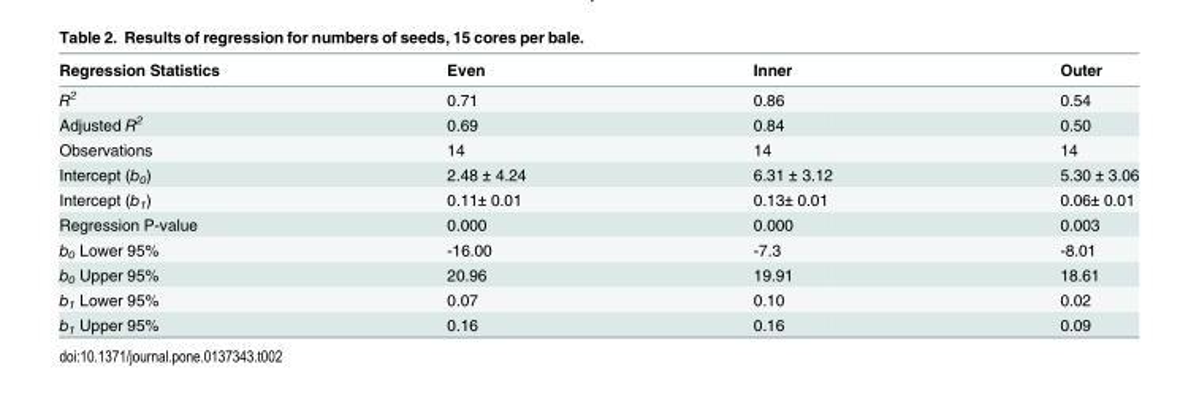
<table><thead><tr><td>Regression Statistics</td><td>Even</td><td>Inner</td><td>Outer</td></tr></thead><tbody><tr><td>R<sup>2</sup></td><td>0.71</td><td>0.86</td><td>0.54</td></tr><tr><td>Adjusted R<sup>2</sup></td><td>0.69</td><td>0.84</td><td>0.50</td></tr><tr><td>Observations</td><td>14</td><td>14</td><td>14</td></tr><tr><td>Intercept (b<sub>0</sub>)</td><td>2.48 ± 4.24</td><td>6.31 ± 3.12</td><td>5.30 ± 3.06</td></tr><tr><td>Intercept (b<sub>1</sub>)</td><td>0.11± 0.01</td><td>0.13± 0.01</td><td>0.06± 0.01</td></tr><tr><td>Regression P-value</td><td>0.000</td><td>0.000</td><td>0.003</td></tr><tr><td>b<sub>0</sub> Lower 95%</td><td>-16.00</td><td>-7.3</td><td>-8.01</td></tr><tr><td>b<sub>0</sub> Upper 95%</td><td>20.96</td><td>19.91</td><td>18.61</td></tr><tr><td>b<sub>1</sub> Lower 95%</td><td>0.07</td><td>0.10</td><td>0.02</td></tr><tr><td>b<sub>1</sub> Upper 95%</td><td>0.16</td><td>0.16</td><td>0.09</td></tr></tbody></table>